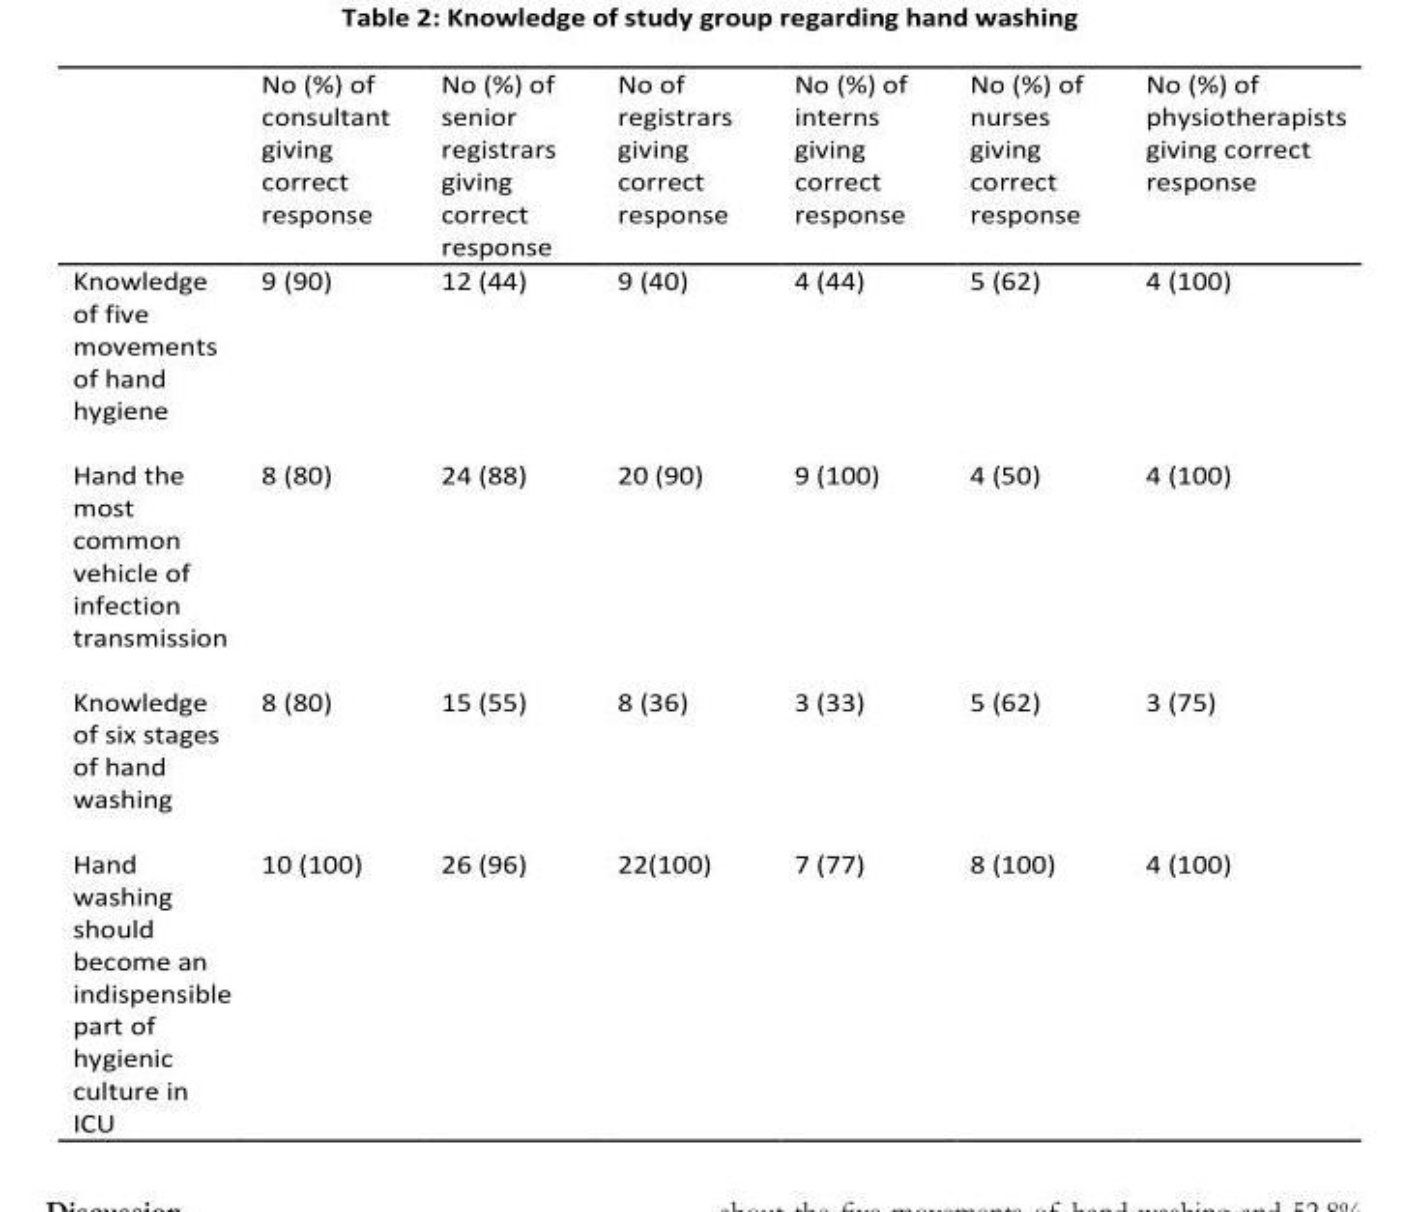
<table><thead><tr><td></td><td>No (%) of consultant giving correct response</td><td>No (%) of senior registrars giving correct response</td><td>No of registrars giving correct response</td><td>No (%) of interns giving correct response</td><td>No (%) of nurses giving correct response</td><td>No (%) of physiotherapists giving correct response</td></tr></thead><tbody><tr><td>Knowledge of five movements of hand hygiene</td><td>9 (90)</td><td>12 (44)</td><td>9 (40)</td><td>4 (44)</td><td>5 (62)</td><td>4 (100)</td></tr><tr><td>Hand the most common vehicle of infection transmission</td><td>8 (80)</td><td>24 (88)</td><td>20 (90)</td><td>9 (100)</td><td>4 (50)</td><td>4 (100)</td></tr><tr><td>Knowledge of six stages of hand washing</td><td>8 (80)</td><td>15 (55)</td><td>8 (36)</td><td>3 (33)</td><td>5 (62)</td><td>3 (75)</td></tr><tr><td>Hand washing should become an indispensible part of hygienic culture in ICU</td><td>10 (100)</td><td>26 (96)</td><td>22(100)</td><td>7 (77)</td><td>8 (100)</td><td>4 (100)</td></tr></tbody></table>